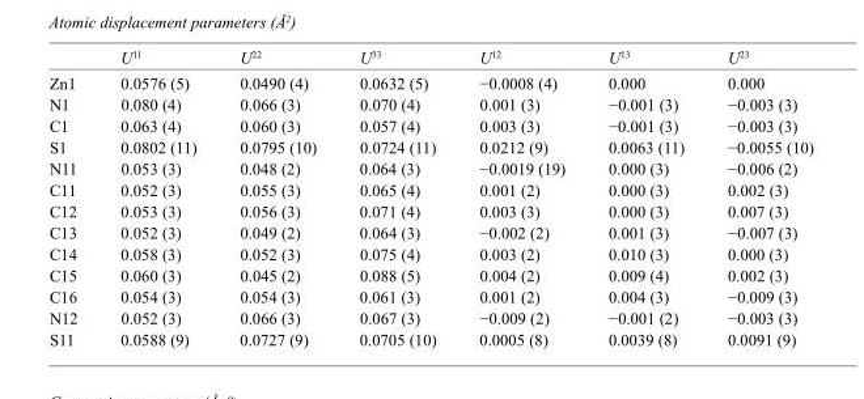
<table><thead><tr><td></td><td>U<sup>11</sup></td><td>U<sup>22</sup></td><td>U<sup>33</sup></td><td>U<sup>12</sup></td><td>U<sup>13</sup></td><td>U<sup>23</sup></td></tr></thead><tbody><tr><td>Zn1</td><td>0.0576 (5)</td><td>0.0490 (4)</td><td>0.0632 (5)</td><td>−0.0008 (4)</td><td>0.000</td><td>0.000</td></tr><tr><td>N1</td><td>0.080 (4)</td><td>0.066 (3)</td><td>0.070 (4)</td><td>0.001 (3)</td><td>−0.001 (3)</td><td>−0.003 (3)</td></tr><tr><td>C1</td><td>0.063 (4)</td><td>0.060 (3)</td><td>0.057 (4)</td><td>0.003 (3)</td><td>−0.001 (3)</td><td>−0.003 (3)</td></tr><tr><td>S1</td><td>0.0802 (11)</td><td>0.0795 (10)</td><td>0.0724 (11)</td><td>0.0212 (9)</td><td>0.0063 (11)</td><td>−0.0055 (10)</td></tr><tr><td>N11</td><td>0.053 (3)</td><td>0.048 (2)</td><td>0.064 (3)</td><td>−0.0019 (19)</td><td>0.000 (3)</td><td>−0.006 (2)</td></tr><tr><td>C11</td><td>0.052 (3)</td><td>0.055 (3)</td><td>0.065 (4)</td><td>0.001 (2)</td><td>0.000 (3)</td><td>0.002 (3)</td></tr><tr><td>C12</td><td>0.053 (3)</td><td>0.056 (3)</td><td>0.071 (4)</td><td>0.003 (3)</td><td>0.000 (3)</td><td>0.007 (3)</td></tr><tr><td>C13</td><td>0.052 (3)</td><td>0.049 (2)</td><td>0.064 (3)</td><td>−0.002 (2)</td><td>0.001 (3)</td><td>−0.007 (3)</td></tr><tr><td>C14</td><td>0.058 (3)</td><td>0.052 (3)</td><td>0.075 (4)</td><td>0.003 (2)</td><td>0.010 (3)</td><td>0.000 (3)</td></tr><tr><td>C15</td><td>0.060 (3)</td><td>0.045 (2)</td><td>0.088 (5)</td><td>0.004 (2)</td><td>0.009 (4)</td><td>0.002 (3)</td></tr><tr><td>C16</td><td>0.054 (3)</td><td>0.054 (3)</td><td>0.061 (3)</td><td>0.001 (2)</td><td>0.004 (3)</td><td>−0.009 (3)</td></tr><tr><td>N12</td><td>0.052 (3)</td><td>0.066 (3)</td><td>0.067 (3)</td><td>−0.009 (2)</td><td>−0.001 (2)</td><td>−0.003 (3)</td></tr><tr><td>S11</td><td>0.0588 (9)</td><td>0.0727 (9)</td><td>0.0705 (10)</td><td>0.0005 (8)</td><td>0.0039 (8)</td><td>0.0091 (9)</td></tr></tbody></table>